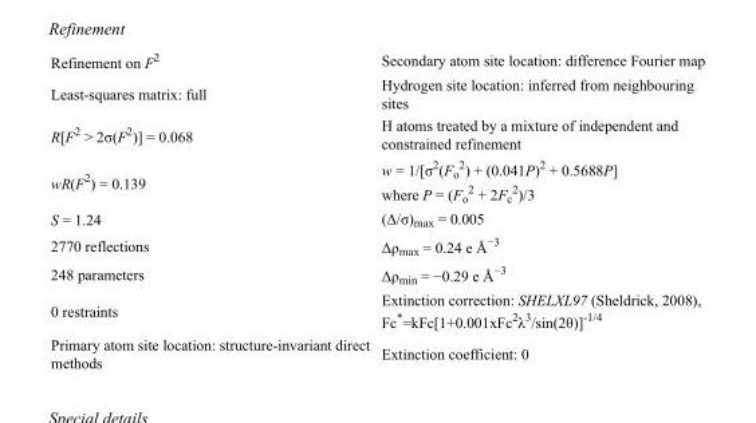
<table><tbody><tr><td>Refinement on F<sup>2</sup></td><td>Secondary atom site location: difference Fourier map</td></tr><tr><td>Least-squares matrix: full</td><td>Hydrogen site location: inferred from neighbouring sites</td></tr><tr><td>R[F<sup>2</sup> &gt; 2σ(F<sup>2</sup>)] = 0.068</td><td>H atoms treated by a mixture of independent and constrained refinement</td></tr><tr><td>wR(F<sup>2</sup>) = 0.139</td><td>w = 1/[σ<sup>2</sup>(F<sub>o</sub> <sup>2</sup>) + (0.041P)<sup>2</sup> + 0.5688P] where P = (F<sub>o</sub> <sup>2</sup> + 2F<sub>c</sub> <sup>2</sup>)/3</td></tr><tr><td>S = 1.24</td><td>(Δ/σ)<sub>max</sub> = 0.005</td></tr><tr><td>2770 reflections</td><td>Δρ<sub>max</sub> = 0.24 e Å<sup>−3</sup></td></tr><tr><td>248 parameters</td><td>Δρ<sub>min</sub> = −0.29 e Å<sup>−3</sup></td></tr><tr><td>0 restraints</td><td>Extinction correction: SHELXL97 (Sheldrick, 2008), Fc*=kFc[1+0.001xFc<sup>2</sup>λ<sup>3</sup>/sin(2θ)]<sup>-1/4</sup></td></tr><tr><td>Primary atom site location: structure-invariant direct methods</td><td>Extinction coefficient: 0</td></tr></tbody></table>